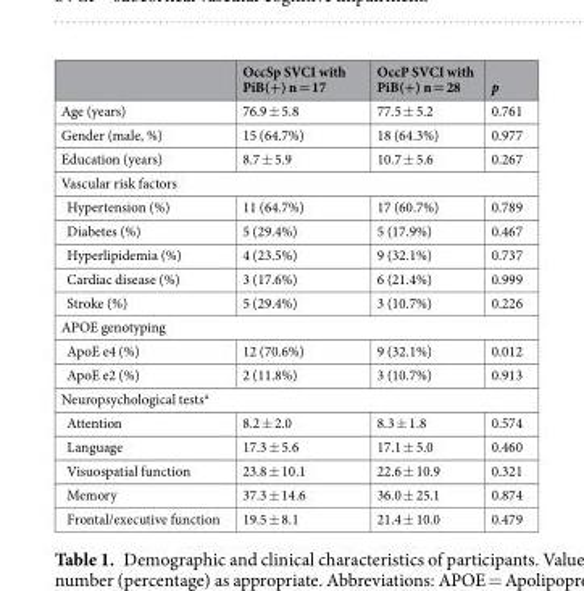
<table><thead><tr><td></td><td>OccSp SVCI with PiB(+) n = 17</td><td>OccP SVCI with PiB(+) n = 28</td><td>p</td></tr></thead><tbody><tr><td>Age (years)</td><td>76.9 ± 5.8</td><td>77.5 ± 5.2</td><td>0.761</td></tr><tr><td>Gender (male, %)</td><td>15 (64.7%)</td><td>18 (64.3%)</td><td>0.977</td></tr><tr><td>Education (years)</td><td>8.7 ± 5.9</td><td>10.7 ± 5.6</td><td>0.267</td></tr><tr><td colspan="4">Vascular risk factors</td></tr><tr><td>Hypertension (%)</td><td>11 (64.7%)</td><td>17 (60.7%)</td><td>0.789</td></tr><tr><td>Diabetes (%)</td><td>5 (29.4%)</td><td>5 (17.9%)</td><td>0.467</td></tr><tr><td>Hyperlipidemia (%)</td><td>4 (23.5%)</td><td>9 (32.1%)</td><td>0.737</td></tr><tr><td>Cardiac disease (%)</td><td>3 (17.6%)</td><td>6 (21.4%)</td><td>0.999</td></tr><tr><td>Stroke (%)</td><td>5 (29.4%)</td><td>3 (10.7%)</td><td>0.226</td></tr><tr><td colspan="4">APOE genotyping</td></tr><tr><td>ApoE e4 (%)</td><td>12 (70.6%)</td><td>9 (32.1%)</td><td>0.012</td></tr><tr><td>ApoE e2 (%)</td><td>2 (11.8%)</td><td>3 (10.7%)</td><td>0.913</td></tr><tr><td colspan="4">Neuropsychological tests<sup>a</sup></td></tr><tr><td>Attention</td><td>8.2 ± 2.0</td><td>8.3 ± 1.8</td><td>0.574</td></tr><tr><td>Language</td><td>17.3 ± 5.6</td><td>17.1 ± 5.0</td><td>0.460</td></tr><tr><td>Visuospatial function</td><td>23.8 ± 10.1</td><td>22.6 ± 10.9</td><td>0.321</td></tr><tr><td>Memory</td><td>37.3 ± 14.6</td><td>36.0 ± 25.1</td><td>0.874</td></tr><tr><td>Frontal/executive function</td><td>19.5 ± 8.1</td><td>21.4 ± 10.0</td><td>0.479</td></tr></tbody></table>